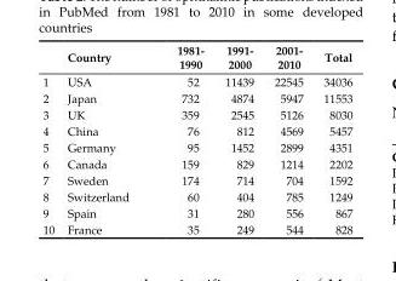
<table><thead><tr><td></td><td>Country</td><td>1981- 1990</td><td>1991- 2000</td><td>2001- 2010</td><td>Total</td></tr></thead><tbody><tr><td>1</td><td>USA</td><td>52</td><td>11439</td><td>22545</td><td>34036</td></tr><tr><td>2</td><td>Japan</td><td>732</td><td>4874</td><td>5947</td><td>11553</td></tr><tr><td>3</td><td>UK</td><td>359</td><td>2545</td><td>5126</td><td>8030</td></tr><tr><td>4</td><td>China</td><td>76</td><td>812</td><td>4569</td><td>5457</td></tr><tr><td>5</td><td>Germany</td><td>95</td><td>1452</td><td>2899</td><td>4351</td></tr><tr><td>6</td><td>Canada</td><td>159</td><td>829</td><td>1214</td><td>2202</td></tr><tr><td>7</td><td>Sweden</td><td>174</td><td>714</td><td>704</td><td>1592</td></tr><tr><td>8</td><td>Switzerland</td><td>60</td><td>404</td><td>785</td><td>1249</td></tr><tr><td>9</td><td>Spain</td><td>31</td><td>280</td><td>556</td><td>867</td></tr><tr><td>10</td><td>France</td><td>35</td><td>249</td><td>544</td><td>828</td></tr></tbody></table>